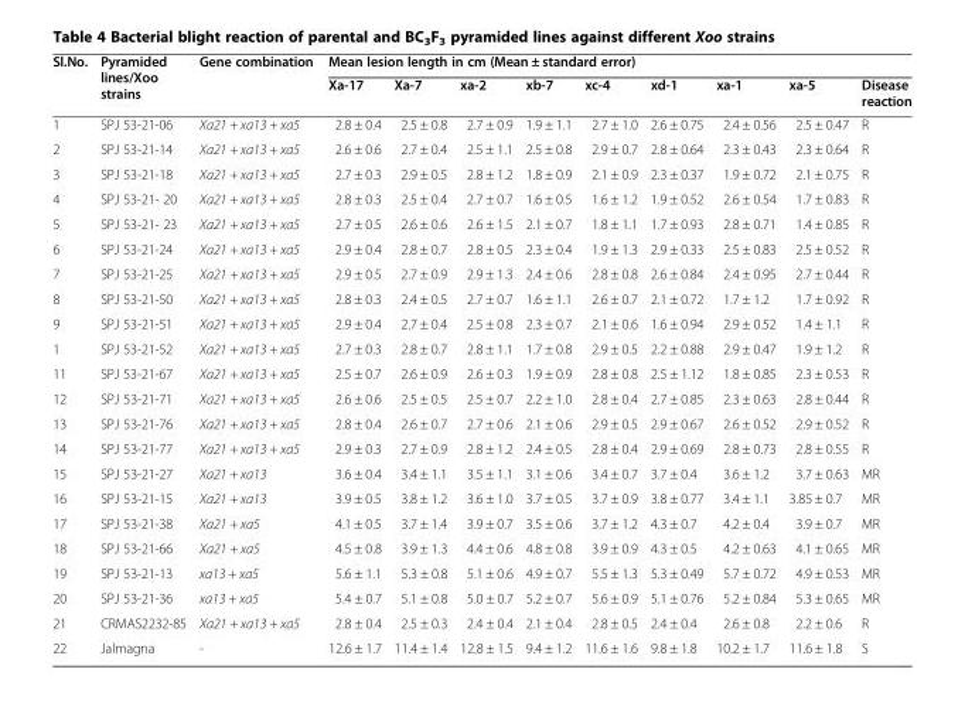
<table><thead><tr><td rowspan="2">Sl.No.</td><td rowspan="2">Pyramided lines/Xoo strains</td><td rowspan="2">Gene combination</td><td colspan="9">Mean lesion length in cm (Mean ± standard error)</td></tr><tr><td>Xa-17</td><td>Xa-7</td><td>xa-2</td><td>xb-7</td><td>xc-4</td><td>xd-1</td><td>xa-1</td><td>xa-5</td><td>Disease reaction</td></tr></thead><tbody><tr><td>1</td><td>SPJ 53-21-06</td><td>Xa21 + xa13 + xa5</td><td>2.8 ± 0.4</td><td>2.5 ± 0.8</td><td>2.7 ± 0.9</td><td>1.9 ± 1.1</td><td>2.7 ± 1.0</td><td>2.6 ± 0.75</td><td>2.4 ± 0.56</td><td>2.5 ± 0.47</td><td>R</td></tr><tr><td>2</td><td>SPJ 53-21-14</td><td>Xa21 + xa13 + xa5</td><td>2.6 ± 0.6</td><td>2.7 ± 0.4</td><td>2.5 ± 1.1</td><td>2.5 ± 0.8</td><td>2.9 ± 0.7</td><td>2.8 ± 0.64</td><td>2.3 ± 0.43</td><td>2.3 ± 0.64</td><td>R</td></tr><tr><td>3</td><td>SPJ 53-21-18</td><td>Xa21 + xa13 + xa5</td><td>2.7 ± 0.3</td><td>2.9 ± 0.5</td><td>2.8 ± 1.2</td><td>1.8 ± 0.9</td><td>2.1 ± 0.9</td><td>2.3 ± 0.37</td><td>1.9 ± 0.72</td><td>2.1 ± 0.75</td><td>R</td></tr><tr><td>4</td><td>SPJ 53-21- 20</td><td>Xa21 + xa13 + xa5</td><td>2.8 ± 0.3</td><td>2.5 ± 0.4</td><td>2.7 ± 0.7</td><td>1.6 ± 0.5</td><td>1.6 ± 1.2</td><td>1.9 ± 0.52</td><td>2.6 ± 0.54</td><td>1.7 ± 0.83</td><td>R</td></tr><tr><td>5</td><td>SPJ 53-21- 23</td><td>Xa21 + xa13 + xa5</td><td>2.7 ± 0.5</td><td>2.6 ± 0.6</td><td>2.6 ± 1.5</td><td>2.1 ± 0.7</td><td>1.8 ± 1.1</td><td>1.7 ± 0.93</td><td>2.8 ± 0.71</td><td>1.4 ± 0.85</td><td>R</td></tr><tr><td>6</td><td>SPJ 53-21-24</td><td>Xa21 + xa13 + xa5</td><td>2.9 ± 0.4</td><td>2.8 ± 0.7</td><td>2.8 ± 0.5</td><td>2.3 ± 0.4</td><td>1.9 ± 1.3</td><td>2.9 ± 0.33</td><td>2.5 ± 0.83</td><td>2.5 ± 0.52</td><td>R</td></tr><tr><td>7</td><td>SPJ 53-21-25</td><td>Xa21 + xa13 + xa5</td><td>2.9 ± 0.5</td><td>2.7 ± 0.9</td><td>2.9 ± 1.3</td><td>2.4 ± 0.6</td><td>2.8 ± 0.8</td><td>2.6 ± 0.84</td><td>2.4 ± 0.95</td><td>2.7 ± 0.44</td><td>R</td></tr><tr><td>8</td><td>SPJ 53-21-50</td><td>Xa21 + xa13 + xa5</td><td>2.8 ± 0.3</td><td>2.4 ± 0.5</td><td>2.7 ± 0.7</td><td>1.6 ± 1.1</td><td>2.6 ± 0.7</td><td>2.1 ± 0.72</td><td>1.7 ± 1.2</td><td>1.7 ± 0.92</td><td>R</td></tr><tr><td>9</td><td>SPJ 53-21-51</td><td>Xa21 + xa13 + xa5</td><td>2.9 ± 0.4</td><td>2.7 ± 0.4</td><td>2.5 ± 0.8</td><td>2.3 ± 0.7</td><td>2.1 ± 0.6</td><td>1.6 ± 0.94</td><td>2.9 ± 0.52</td><td>1.4 ± 1.1</td><td>R</td></tr><tr><td>1</td><td>SPJ 53-21-52</td><td>Xa21 + xa13 + xa5</td><td>2.7 ± 0.3</td><td>2.8 ± 0.7</td><td>2.8 ± 1.1</td><td>1.7 ± 0.8</td><td>2.9 ± 0.5</td><td>2.2 ± 0.88</td><td>2.9 ± 0.47</td><td>1.9 ± 1.2</td><td>R</td></tr><tr><td>11</td><td>SPJ 53-21-67</td><td>Xa21 + xa13 + xa5</td><td>2.5 ± 0.7</td><td>2.6 ± 0.9</td><td>2.6 ± 0.3</td><td>1.9 ± 0.9</td><td>2.8 ± 0.8</td><td>2.5 ± 1.12</td><td>1.8 ± 0.85</td><td>2.3 ± 0.53</td><td>R</td></tr><tr><td>12</td><td>SPJ 53-21-71</td><td>Xa21 + xa13 + xa5</td><td>2.6 ± 0.6</td><td>2.5 ± 0.5</td><td>2.5 ± 0.7</td><td>2.2 ± 1.0</td><td>2.8 ± 0.4</td><td>2.7 ± 0.85</td><td>2.3 ± 0.63</td><td>2.8 ± 0.44</td><td>R</td></tr><tr><td>13</td><td>SPJ 53-21-76</td><td>Xa21 + xa13 + xa5</td><td>2.8 ± 0.4</td><td>2.6 ± 0.7</td><td>2.7 ± 0.6</td><td>2.1 ± 0.6</td><td>2.9 ± 0.5</td><td>2.9 ± 0.67</td><td>2.6 ± 0.52</td><td>2.9 ± 0.52</td><td>R</td></tr><tr><td>14</td><td>SPJ 53-21-77</td><td>Xa21 + xa13 + xa5</td><td>2.9 ± 0.3</td><td>2.7 ± 0.9</td><td>2.8 ± 1.2</td><td>2.4 ± 0.5</td><td>2.8 ± 0.4</td><td>2.9 ± 0.69</td><td>2.8 ± 0.73</td><td>2.8 ± 0.55</td><td>R</td></tr><tr><td>15</td><td>SPJ 53-21-27</td><td>Xa21 + xa13</td><td>3.6 ± 0.4</td><td>3.4 ± 1.1</td><td>3.5 ± 1.1</td><td>3.1 ± 0.6</td><td>3.4 ± 0.7</td><td>3.7 ± 0.4</td><td>3.6 ± 1.2</td><td>3.7 ± 0.63</td><td>MR</td></tr><tr><td>16</td><td>SPJ 53-21-15</td><td>Xa21 + xa13</td><td>3.9 ± 0.5</td><td>3.8 ± 1.2</td><td>3.6 ± 1.0</td><td>3.7 ± 0.5</td><td>3.7 ± 0.9</td><td>3.8 ± 0.77</td><td>3.4 ± 1.1</td><td>3.85 ± 0.7</td><td>MR</td></tr><tr><td>17</td><td>SPJ 53-21-38</td><td>Xa21 + xa5</td><td>4.1 ± 0.5</td><td>3.7 ± 1.4</td><td>3.9 ± 0.7</td><td>3.5 ± 0.6</td><td>3.7 ± 1.2</td><td>4.3 ± 0.7</td><td>4.2 ± 0.4</td><td>3.9 ± 0.7</td><td>MR</td></tr><tr><td>18</td><td>SPJ 53-21-66</td><td>Xa21 + xa5</td><td>4.5 ± 0.8</td><td>3.9 ± 1.3</td><td>4.4 ± 0.6</td><td>4.8 ± 0.8</td><td>3.9 ± 0.9</td><td>4.3 ± 0.5</td><td>4.2 ± 0.63</td><td>4.1 ± 0.65</td><td>MR</td></tr><tr><td>19</td><td>SPJ 53-21-13</td><td>xa13 + xa5</td><td>5.6 ± 1.1</td><td>5.3 ± 0.8</td><td>5.1 ± 0.6</td><td>4.9 ± 0.7</td><td>5.5 ± 1.3</td><td>5.3 ± 0.49</td><td>5.7 ± 0.72</td><td>4.9 ± 0.53</td><td>MR</td></tr><tr><td>20</td><td>SPJ 53-21-36</td><td>xa13 + xa5</td><td>5.4 ± 0.7</td><td>5.1 ± 0.8</td><td>5.0 ± 0.7</td><td>5.2 ± 0.7</td><td>5.6 ± 0.9</td><td>5.1 ± 0.76</td><td>5.2 ± 0.84</td><td>5.3 ± 0.65</td><td>MR</td></tr><tr><td>21</td><td>CRMAS2232-85</td><td>Xa21 + xa13 + xa5</td><td>2.8 ± 0.4</td><td>2.5 ± 0.3</td><td>2.4 ± 0.4</td><td>2.1 ± 0.4</td><td>2.8 ± 0.5</td><td>2.4 ± 0.4</td><td>2.6 ± 0.8</td><td>2.2 ± 0.6</td><td>R</td></tr><tr><td>22</td><td>Jalmagna</td><td>-</td><td>12.6 ± 1.7</td><td>11.4 ± 1.4</td><td>12.8 ± 1.5</td><td>9.4 ± 1.2</td><td>11.6 ± 1.6</td><td>9.8 ± 1.8</td><td>10.2 ± 1.7</td><td>11.6 ± 1.8</td><td>S</td></tr></tbody></table>